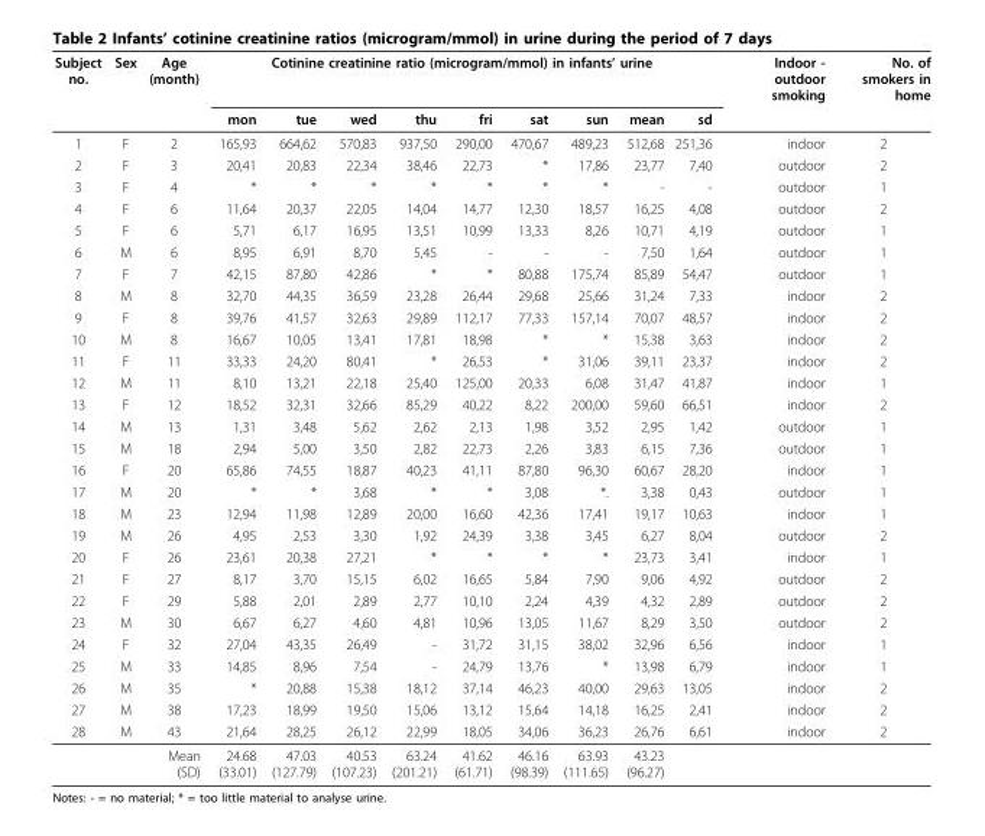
<table><thead><tr><td rowspan="2">Subject no.</td><td rowspan="2">Sex</td><td rowspan="2">Age (month)</td><td colspan="9">Cotinine creatinine ratio (microgram/mmol) in infants’ urine</td><td rowspan="2">Indoor - outdoor smoking</td><td rowspan="2">No. of smokers in home</td></tr><tr><td>mon</td><td>tue</td><td>wed</td><td>thu</td><td>fri</td><td>sat</td><td>sun</td><td>mean</td><td>sd</td></tr></thead><tbody><tr><td>1</td><td>F</td><td>2</td><td>165,93</td><td>664,62</td><td>570,83</td><td>937,50</td><td>290,00</td><td>470,67</td><td>489,23</td><td>512,68</td><td>251,36</td><td>indoor</td><td>2</td></tr><tr><td>2</td><td>F</td><td>3</td><td>20,41</td><td>20,83</td><td>22,34</td><td>38,46</td><td>22,73</td><td>*</td><td>17,86</td><td>23,77</td><td>7,40</td><td>outdoor</td><td>2</td></tr><tr><td>3</td><td>F</td><td>4</td><td>*</td><td>*</td><td>*</td><td>*</td><td>*</td><td>*</td><td>*</td><td>-</td><td>-</td><td>outdoor</td><td>1</td></tr><tr><td>4</td><td>F</td><td>6</td><td>11,64</td><td>20,37</td><td>22,05</td><td>14,04</td><td>14,77</td><td>12,30</td><td>18,57</td><td>16,25</td><td>4,08</td><td>outdoor</td><td>2</td></tr><tr><td>5</td><td>F</td><td>6</td><td>5,71</td><td>6,17</td><td>16,95</td><td>13,51</td><td>10,99</td><td>13,33</td><td>8,26</td><td>10,71</td><td>4,19</td><td>outdoor</td><td>1</td></tr><tr><td>6</td><td>M</td><td>6</td><td>8,95</td><td>6,91</td><td>8,70</td><td>5,45</td><td>-</td><td>-</td><td>-</td><td>7,50</td><td>1,64</td><td>outdoor</td><td>1</td></tr><tr><td>7</td><td>F</td><td>7</td><td>42,15</td><td>87,80</td><td>42,86</td><td>*</td><td>*</td><td>80,88</td><td>175,74</td><td>85,89</td><td>54,47</td><td>outdoor</td><td>1</td></tr><tr><td>8</td><td>M</td><td>8</td><td>32,70</td><td>44,35</td><td>36,59</td><td>23,28</td><td>26,44</td><td>29,68</td><td>25,66</td><td>31,24</td><td>7,33</td><td>indoor</td><td>2</td></tr><tr><td>9</td><td>F</td><td>8</td><td>39,76</td><td>41,57</td><td>32,63</td><td>29,89</td><td>112,17</td><td>77,33</td><td>157,14</td><td>70,07</td><td>48,57</td><td>indoor</td><td>2</td></tr><tr><td>10</td><td>M</td><td>8</td><td>16,67</td><td>10,05</td><td>13,41</td><td>17,81</td><td>18,98</td><td>*</td><td>*</td><td>15,38</td><td>3,63</td><td>indoor</td><td>2</td></tr><tr><td>11</td><td>F</td><td>11</td><td>33,33</td><td>24,20</td><td>80,41</td><td>*</td><td>26,53</td><td>*</td><td>31,06</td><td>39,11</td><td>23,37</td><td>indoor</td><td>2</td></tr><tr><td>12</td><td>M</td><td>11</td><td>8,10</td><td>13,21</td><td>22,18</td><td>25,40</td><td>125,00</td><td>20,33</td><td>6,08</td><td>31,47</td><td>41,87</td><td>indoor</td><td>1</td></tr><tr><td>13</td><td>F</td><td>12</td><td>18,52</td><td>32,31</td><td>32,66</td><td>85,29</td><td>40,22</td><td>8,22</td><td>200,00</td><td>59,60</td><td>66,51</td><td>indoor</td><td>2</td></tr><tr><td>14</td><td>M</td><td>13</td><td>1,31</td><td>3,48</td><td>5,62</td><td>2,62</td><td>2,13</td><td>1,98</td><td>3,52</td><td>2,95</td><td>1,42</td><td>outdoor</td><td>1</td></tr><tr><td>15</td><td>M</td><td>18</td><td>2,94</td><td>5,00</td><td>3,50</td><td>2,82</td><td>22,73</td><td>2,26</td><td>3,83</td><td>6,15</td><td>7,36</td><td>outdoor</td><td>1</td></tr><tr><td>16</td><td>F</td><td>20</td><td>65,86</td><td>74,55</td><td>18,87</td><td>40,23</td><td>41,11</td><td>87,80</td><td>96,30</td><td>60,67</td><td>28,20</td><td>indoor</td><td>1</td></tr><tr><td>17</td><td>M</td><td>20</td><td>*</td><td>*</td><td>3,68</td><td>*</td><td>*</td><td>3,08</td><td>*.</td><td>3,38</td><td>0,43</td><td>outdoor</td><td>1</td></tr><tr><td>18</td><td>M</td><td>23</td><td>12,94</td><td>11,98</td><td>12,89</td><td>20,00</td><td>16,60</td><td>42,36</td><td>17,41</td><td>19,17</td><td>10,63</td><td>indoor</td><td>1</td></tr><tr><td>19</td><td>M</td><td>26</td><td>4,95</td><td>2,53</td><td>3,30</td><td>1,92</td><td>24,39</td><td>3,38</td><td>3,45</td><td>6,27</td><td>8,04</td><td>outdoor</td><td>2</td></tr><tr><td>20</td><td>F</td><td>26</td><td>23,61</td><td>20,38</td><td>27,21</td><td>*</td><td>*</td><td>*</td><td>*</td><td>23,73</td><td>3,41</td><td>indoor</td><td>1</td></tr><tr><td>21</td><td>F</td><td>27</td><td>8,17</td><td>3,70</td><td>15,15</td><td>6,02</td><td>16,65</td><td>5,84</td><td>7,90</td><td>9,06</td><td>4,92</td><td>outdoor</td><td>2</td></tr><tr><td>22</td><td>F</td><td>29</td><td>5,88</td><td>2,01</td><td>2,89</td><td>2,77</td><td>10,10</td><td>2,24</td><td>4,39</td><td>4,32</td><td>2,89</td><td>outdoor</td><td>2</td></tr><tr><td>23</td><td>M</td><td>30</td><td>6,67</td><td>6,27</td><td>4,60</td><td>4,81</td><td>10,96</td><td>13,05</td><td>11,67</td><td>8,29</td><td>3,50</td><td>outdoor</td><td>2</td></tr><tr><td>24</td><td>F</td><td>32</td><td>27,04</td><td>43,35</td><td>26,49</td><td>-</td><td>31,72</td><td>31,15</td><td>38,02</td><td>32,96</td><td>6,56</td><td>indoor</td><td>1</td></tr><tr><td>25</td><td>M</td><td>33</td><td>14,85</td><td>8,96</td><td>7,54</td><td>-</td><td>24,79</td><td>13,76</td><td>*</td><td>13,98</td><td>6,79</td><td>indoor</td><td>1</td></tr><tr><td>26</td><td>M</td><td>35</td><td>*</td><td>20,88</td><td>15,38</td><td>18,12</td><td>37,14</td><td>46,23</td><td>40,00</td><td>29,63</td><td>13,05</td><td>indoor</td><td>2</td></tr><tr><td>27</td><td>M</td><td>38</td><td>17,23</td><td>18,99</td><td>19,50</td><td>15,06</td><td>13,12</td><td>15,64</td><td>14,18</td><td>16,25</td><td>2,41</td><td>indoor</td><td>2</td></tr><tr><td>28</td><td>M</td><td>43</td><td>21,64</td><td>28,25</td><td>26,12</td><td>22,99</td><td>18,05</td><td>34,06</td><td>36,23</td><td>26,76</td><td>6,61</td><td>indoor</td><td>2</td></tr><tr><td colspan="3">Mean (SD)</td><td>24.68 (33.01)</td><td>47.03 (127.79)</td><td>40.53 (107.23)</td><td>63.24 (201.21)</td><td>41.62 (61.71)</td><td>46.16 (98.39)</td><td>63.93 (111.65)</td><td>43.23 (96.27)</td><td></td><td></td><td></td></tr></tbody></table>